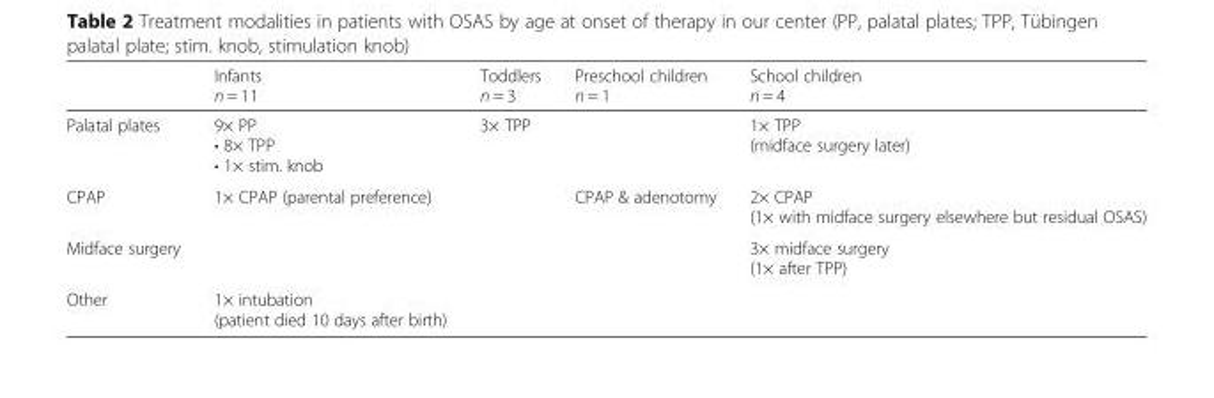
<table><thead><tr><td></td><td>Infants n = 11</td><td>Toddlers n = 3</td><td>Preschool children n = 1</td><td>School children n = 4</td></tr></thead><tbody><tr><td>Palatal plates</td><td>9× PP • 8× TPP • 1× stim. knob</td><td>3× TPP</td><td></td><td>1× TPP (midface surgery later)</td></tr><tr><td>CPAP</td><td>1× CPAP (parental preference)</td><td></td><td>CPAP &amp; adenotomy</td><td>2× CPAP (1× with midface surgery elsewhere but residual OSAS)</td></tr><tr><td>Midface surgery</td><td></td><td></td><td></td><td>3× midface surgery (1× after TPP)</td></tr><tr><td>Other</td><td>1× intubation (patient died 10 days after birth)</td><td></td><td></td><td></td></tr></tbody></table>